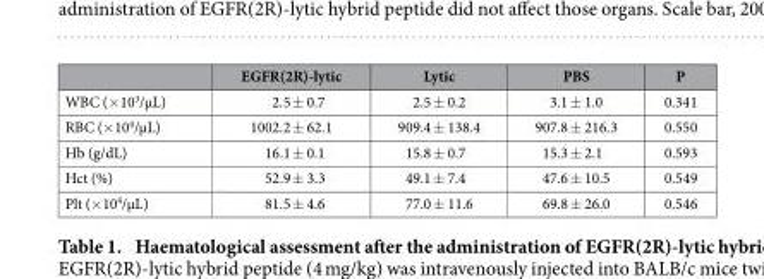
<table><thead><tr><td></td><td>EGFR(2R)-lytic</td><td>Lytic</td><td>PBS</td><td>P</td></tr></thead><tbody><tr><td>WBC (×10<sup>3</sup>/μL)</td><td>2.5 ± 0.7</td><td>2.5 ± 0.2</td><td>3.1 ± 1.0</td><td>0.341</td></tr><tr><td>RBC (×10<sup>4</sup>/μL)</td><td>1002.2 ± 62.1</td><td>909.4 ± 138.4</td><td>907.8 ± 216.3</td><td>0.550</td></tr><tr><td>Hb (g/dL)</td><td>16.1 ± 0.1</td><td>15.8 ± 0.7</td><td>15.3 ± 2.1</td><td>0.593</td></tr><tr><td>Hct (%)</td><td>52.9 ± 3.3</td><td>49.1 ± 7.4</td><td>47.6 ± 10.5</td><td>0.549</td></tr><tr><td>Plt (×10<sup>4</sup>/μL)</td><td>81.5 ± 4.6</td><td>77.0 ± 11.6</td><td>69.8 ± 26.0</td><td>0.546</td></tr></tbody></table>